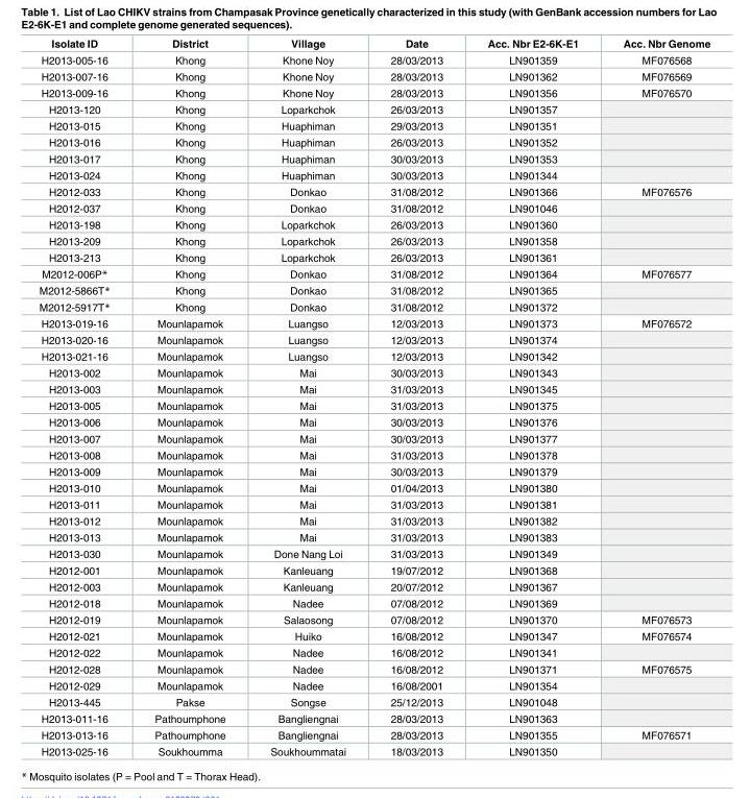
<table><thead><tr><td>Isolate ID</td><td>District</td><td>Village</td><td>Date</td><td>Acc. Nbr E2-6K-E1</td><td>Acc. Nbr Genome</td></tr></thead><tbody><tr><td>H2013-005-16</td><td>Khong</td><td>Khone Noy</td><td>28/03/2013</td><td>LN901359</td><td>MF076568</td></tr><tr><td>H2013-007-16</td><td>Khong</td><td>Khone Noy</td><td>28/03/2013</td><td>LN901362</td><td>MF076569</td></tr><tr><td>H2013-009-16</td><td>Khong</td><td>Khone Noy</td><td>28/03/2013</td><td>LN901356</td><td>MF076570</td></tr><tr><td>H2013-120</td><td>Khong</td><td>Loparkchok</td><td>26/03/2013</td><td>LN901357</td><td></td></tr><tr><td>H2013-015</td><td>Khong</td><td>Huaphiman</td><td>29/03/2013</td><td>LN901351</td><td></td></tr><tr><td>H2013-016</td><td>Khong</td><td>Huaphiman</td><td>26/03/2013</td><td>LN901352</td><td></td></tr><tr><td>H2013-017</td><td>Khong</td><td>Huaphiman</td><td>30/03/2013</td><td>LN901353</td><td></td></tr><tr><td>H2013-024</td><td>Khong</td><td>Huaphiman</td><td>30/03/2013</td><td>LN901344</td><td></td></tr><tr><td>H2012-033</td><td>Khong</td><td>Donkao</td><td>31/08/2012</td><td>LN901366</td><td>MF076576</td></tr><tr><td>H2012-037</td><td>Khong</td><td>Donkao</td><td>31/08/2012</td><td>LN901046</td><td></td></tr><tr><td>H2013-198</td><td>Khong</td><td>Loparkchok</td><td>26/03/2013</td><td>LN901360</td><td></td></tr><tr><td>H2013-209</td><td>Khong</td><td>Loparkchok</td><td>26/03/2013</td><td>LN901358</td><td></td></tr><tr><td>H2013-213</td><td>Khong</td><td>Loparkchok</td><td>26/03/2013</td><td>LN901361</td><td></td></tr><tr><td>M2012-006P*</td><td>Khong</td><td>Donkao</td><td>31/08/2012</td><td>LN901364</td><td>MF076577</td></tr><tr><td>M2012-5866T*</td><td>Khong</td><td>Donkao</td><td>31/08/2012</td><td>LN901365</td><td></td></tr><tr><td>M2012-5917T*</td><td>Khong</td><td>Donkao</td><td>31/08/2012</td><td>LN901372</td><td></td></tr><tr><td>H2013-019-16</td><td>Mounlapamok</td><td>Luangso</td><td>12/03/2013</td><td>LN901373</td><td>MF076572</td></tr><tr><td>H2013-020-16</td><td>Mounlapamok</td><td>Luangso</td><td>12/03/2013</td><td>LN901374</td><td></td></tr><tr><td>H2013-021-16</td><td>Mounlapamok</td><td>Luangso</td><td>12/03/2013</td><td>LN901342</td><td></td></tr><tr><td>H2013-002</td><td>Mounlapamok</td><td>Mai</td><td>30/03/2013</td><td>LN901343</td><td></td></tr><tr><td>H2013-003</td><td>Mounlapamok</td><td>Mai</td><td>31/03/2013</td><td>LN901345</td><td></td></tr><tr><td>H2013-005</td><td>Mounlapamok</td><td>Mai</td><td>31/03/2013</td><td>LN901375</td><td></td></tr><tr><td>H2013-006</td><td>Mounlapamok</td><td>Mai</td><td>30/03/2013</td><td>LN901376</td><td></td></tr><tr><td>H2013-007</td><td>Mounlapamok</td><td>Mai</td><td>30/03/2013</td><td>LN901377</td><td></td></tr><tr><td>H2013-008</td><td>Mounlapamok</td><td>Mai</td><td>31/03/2013</td><td>LN901378</td><td></td></tr><tr><td>H2013-009</td><td>Mounlapamok</td><td>Mai</td><td>30/03/2013</td><td>LN901379</td><td></td></tr><tr><td>H2013-010</td><td>Mounlapamok</td><td>Mai</td><td>01/04/2013</td><td>LN901380</td><td></td></tr><tr><td>H2013-011</td><td>Mounlapamok</td><td>Mai</td><td>31/03/2013</td><td>LN901381</td><td></td></tr><tr><td>H2013-012</td><td>Mounlapamok</td><td>Mai</td><td>31/03/2013</td><td>LN901382</td><td></td></tr><tr><td>H2013-013</td><td>Mounlapamok</td><td>Mai</td><td>31/03/2013</td><td>LN901383</td><td></td></tr><tr><td>H2013-030</td><td>Mounlapamok</td><td>Done Nang Loi</td><td>31/03/2013</td><td>LN901349</td><td></td></tr><tr><td>H2012-001</td><td>Mounlapamok</td><td>Kanleuang</td><td>19/07/2012</td><td>LN901368</td><td></td></tr><tr><td>H2012-003</td><td>Mounlapamok</td><td>Kanleuang</td><td>20/07/2012</td><td>LN901367</td><td></td></tr><tr><td>H2012-018</td><td>Mounlapamok</td><td>Nadee</td><td>07/08/2012</td><td>LN901369</td><td></td></tr><tr><td>H2012-019</td><td>Mounlapamok</td><td>Salaosong</td><td>07/08/2012</td><td>LN901370</td><td>MF076573</td></tr><tr><td>H2012-021</td><td>Mounlapamok</td><td>Huiko</td><td>16/08/2012</td><td>LN901347</td><td>MF076574</td></tr><tr><td>H2012-022</td><td>Mounlapamok</td><td>Nadee</td><td>16/08/2012</td><td>LN901341</td><td></td></tr><tr><td>H2012-028</td><td>Mounlapamok</td><td>Nadee</td><td>16/08/2012</td><td>LN901371</td><td>MF076575</td></tr><tr><td>H2012-029</td><td>Mounlapamok</td><td>Nadee</td><td>16/08/2001</td><td>LN901354</td><td></td></tr><tr><td>H2013-445</td><td>Pakse</td><td>Songse</td><td>25/12/2013</td><td>LN901048</td><td></td></tr><tr><td>H2013-011-16</td><td>Pathoumphone</td><td>Bangliengnai</td><td>28/03/2013</td><td>LN901363</td><td></td></tr><tr><td>H2013-013-16</td><td>Pathoumphone</td><td>Bangliengnai</td><td>28/03/2013</td><td>LN901355</td><td>MF076571</td></tr><tr><td>H2013-025-16</td><td>Soukhoumma</td><td>Soukhoummatai</td><td>18/03/2013</td><td>LN901350</td><td></td></tr></tbody></table>